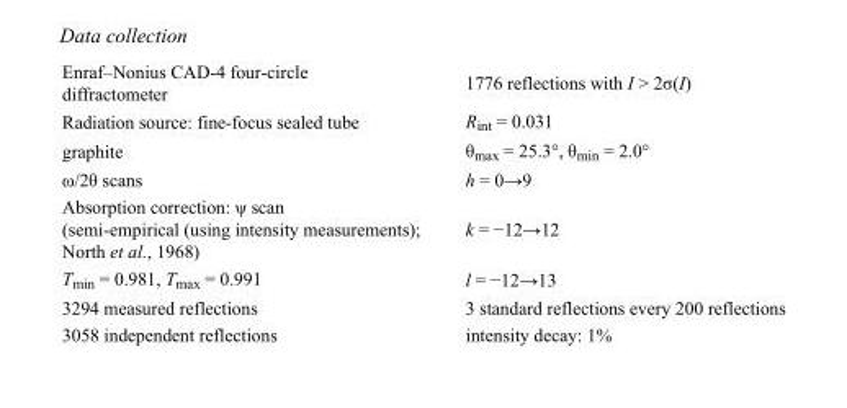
<table><tbody><tr><td>Enraf–Nonius CAD-4 four-circle diffractometer</td><td>1776 reflections with I &gt; 2σ(I)</td></tr><tr><td>Radiation source: fine-focus sealed tube</td><td>R<sub>int</sub> = 0.031</td></tr><tr><td>graphite</td><td>θ<sub>max</sub> = 25.3°, θ<sub>min</sub> = 2.0°</td></tr><tr><td>ω/2θ scans</td><td>h = 0→9</td></tr><tr><td>Absorption correction: ψ scan (semi-empirical (using intensity measurements); North et al., 1968)</td><td>k = −12→12</td></tr><tr><td>T<sub>min</sub> = 0.981, T<sub>max</sub> = 0.991</td><td>l = −12→13</td></tr><tr><td>3294 measured reflections</td><td>3 standard reflections every 200 reflections</td></tr><tr><td>3058 independent reflections</td><td>intensity decay: 1%</td></tr></tbody></table>